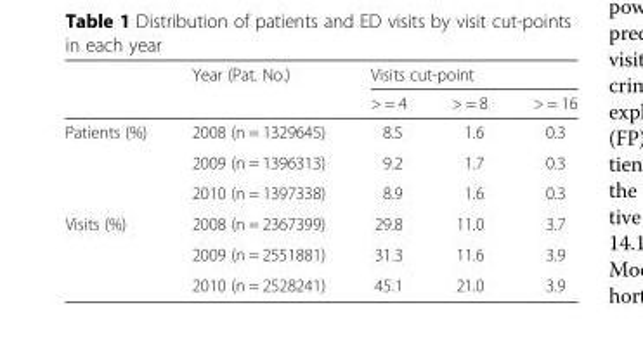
<table><thead><tr><td rowspan="2"></td><td rowspan="2">Year (Pat. No.)</td><td colspan="3">Visits cut-point</td></tr><tr><td>&gt; = 4</td><td>&gt; = 8</td><td>&gt; = 16</td></tr></thead><tbody><tr><td rowspan="3">Patients (%)</td><td>2008 (n = 1329645)</td><td>8.5</td><td>1.6</td><td>0.3</td></tr><tr><td>2009 (n = 1396313)</td><td>9.2</td><td>1.7</td><td>0.3</td></tr><tr><td>2010 (n = 1397338)</td><td>8.9</td><td>1.6</td><td>0.3</td></tr><tr><td rowspan="3">Visits (%)</td><td>2008 (n = 2367399)</td><td>29.8</td><td>11.0</td><td>3.7</td></tr><tr><td>2009 (n = 2551881)</td><td>31.3</td><td>11.6</td><td>3.9</td></tr><tr><td>2010 (n = 2528241)</td><td>45.1</td><td>21.0</td><td>3.9</td></tr></tbody></table>